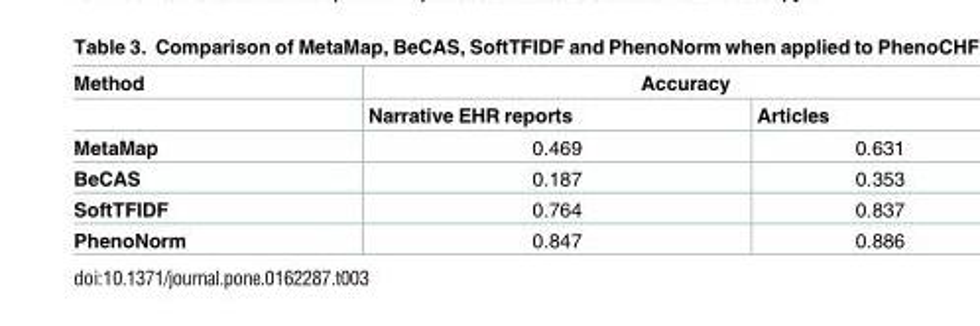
<table><thead><tr><td rowspan="2">Method</td><td colspan="2">Accuracy</td></tr><tr><td>Narrative EHR reports</td><td>Articles</td></tr></thead><tbody><tr><td>MetaMap</td><td>0.469</td><td>0.631</td></tr><tr><td>BeCAS</td><td>0.187</td><td>0.353</td></tr><tr><td>SoftTFIDF</td><td>0.764</td><td>0.837</td></tr><tr><td>PhenoNorm</td><td>0.847</td><td>0.886</td></tr></tbody></table>